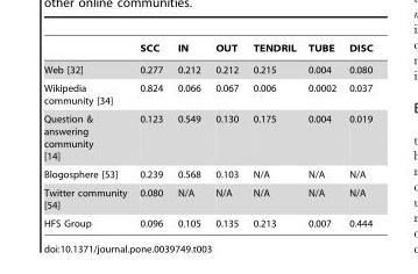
<table><thead><tr><td></td><td>SCC</td><td>IN</td><td>OUT</td><td>TENDRIL</td><td>TUBE</td><td>DISC</td></tr></thead><tbody><tr><td>Web [32]</td><td>0.277</td><td>0.212</td><td>0.212</td><td>0.215</td><td>0.004</td><td>0.080</td></tr><tr><td>Wikipedia community [34]</td><td>0.824</td><td>0.066</td><td>0.067</td><td>0.006</td><td>0.0002</td><td>0.037</td></tr><tr><td>Question &amp; answering community [14]</td><td>0.123</td><td>0.549</td><td>0.130</td><td>0.175</td><td>0.004</td><td>0.019</td></tr><tr><td>Blogosphere [53]</td><td>0.239</td><td>0.568</td><td>0.103</td><td>N/A</td><td>N/A</td><td>N/A</td></tr><tr><td>Twitter community [54]</td><td>0.080</td><td>N/A</td><td>N/A</td><td>N/A</td><td>N/A</td><td>N/A</td></tr><tr><td>HFS Group</td><td>0.096</td><td>0.105</td><td>0.135</td><td>0.213</td><td>0.007</td><td>0.444</td></tr></tbody></table>